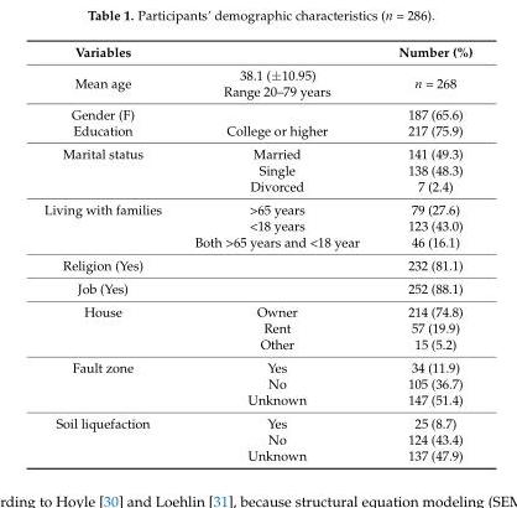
<table><thead><tr><td>Variables</td><td></td><td>Number (%)</td></tr></thead><tbody><tr><td>Mean age</td><td>38.1 (±10.95) Range 20–79 years</td><td>n = 268</td></tr><tr><td>Gender (F)</td><td></td><td>187 (65.6)</td></tr><tr><td>Education</td><td>College or higher</td><td>217 (75.9)</td></tr><tr><td rowspan="3">Marital status</td><td>Married</td><td>141 (49.3)</td></tr><tr><td>Single</td><td>138 (48.3)</td></tr><tr><td>Divorced</td><td>7 (2.4)</td></tr><tr><td rowspan="3">Living with families</td><td>&gt;65 years</td><td>79 (27.6)</td></tr><tr><td>&lt;18 years</td><td>123 (43.0)</td></tr><tr><td>Both &gt;65 years and &lt;18 year</td><td>46 (16.1)</td></tr><tr><td>Religion (Yes)</td><td></td><td>232 (81.1)</td></tr><tr><td>Job (Yes)</td><td></td><td>252 (88.1)</td></tr><tr><td rowspan="3">House</td><td>Owner</td><td>214 (74.8)</td></tr><tr><td>Rent</td><td>57 (19.9)</td></tr><tr><td>Other</td><td>15 (5.2)</td></tr><tr><td rowspan="3">Fault zone</td><td>Yes</td><td>34 (11.9)</td></tr><tr><td>No</td><td>105 (36.7)</td></tr><tr><td>Unknown</td><td>147 (51.4)</td></tr><tr><td rowspan="3">Soil liquefaction</td><td>Yes</td><td>25 (8.7)</td></tr><tr><td>No</td><td>124 (43.4)</td></tr><tr><td>Unknown</td><td>137 (47.9)</td></tr></tbody></table>